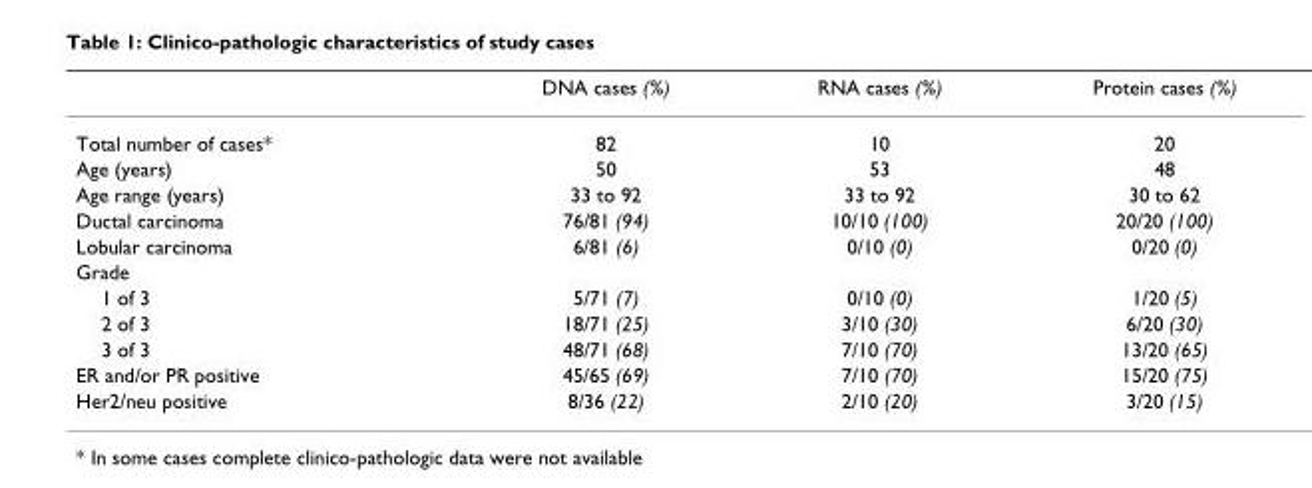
<table><thead><tr><td></td><td>DNA cases (%)</td><td>RNA cases (%)</td><td>Protein cases (%)</td></tr></thead><tbody><tr><td>Total number of cases*</td><td>82</td><td>10</td><td>20</td></tr><tr><td>Age (years)</td><td>50</td><td>53</td><td>48</td></tr><tr><td>Age range (years)</td><td>33 to 92</td><td>33 to 92</td><td>30 to 62</td></tr><tr><td>Ductal carcinoma</td><td>76/81 (94)</td><td>10/10 (100)</td><td>20/20 (100)</td></tr><tr><td>Lobular carcinoma</td><td>6/81 (6)</td><td>0/10 (0)</td><td>0/20 (0)</td></tr><tr><td colspan="4">Grade</td></tr><tr><td>1 of 3</td><td>5/71 (7)</td><td>0/10 (0)</td><td>1/20 (5)</td></tr><tr><td>2 of 3</td><td>18/71 (25)</td><td>3/10 (30)</td><td>6/20 (30)</td></tr><tr><td>3 of 3</td><td>48/71 (68)</td><td>7/10 (70)</td><td>13/20 (65)</td></tr><tr><td>ER and/or PR positive</td><td>45/65 (69)</td><td>7/10 (70)</td><td>15/20 (75)</td></tr><tr><td>Her2/neu positive</td><td>8/36 (22)</td><td>2/10 (20)</td><td>3/20 (15)</td></tr></tbody></table>